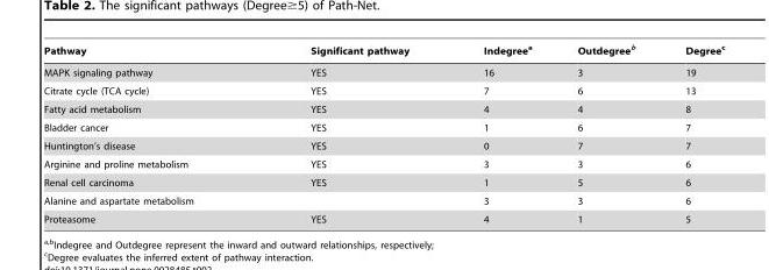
<table><thead><tr><td>Pathway</td><td>Significant pathway</td><td>Indegree<sup>a</sup></td><td>Outdegree<sup>b</sup></td><td>Degree<sup>c</sup></td></tr></thead><tbody><tr><td>MAPK signaling pathway</td><td>YES</td><td>16</td><td>3</td><td>19</td></tr><tr><td>Citrate cycle (TCA cycle)</td><td>YES</td><td>7</td><td>6</td><td>13</td></tr><tr><td>Fatty acid metabolism</td><td>YES</td><td>4</td><td>4</td><td>8</td></tr><tr><td>Bladder cancer</td><td>YES</td><td>1</td><td>6</td><td>7</td></tr><tr><td>Huntington’s disease</td><td>YES</td><td>0</td><td>7</td><td>7</td></tr><tr><td>Arginine and proline metabolism</td><td>YES</td><td>3</td><td>3</td><td>6</td></tr><tr><td>Renal cell carcinoma</td><td>YES</td><td>1</td><td>5</td><td>6</td></tr><tr><td>Alanine and aspartate metabolism</td><td></td><td>3</td><td>3</td><td>6</td></tr><tr><td>Proteasome</td><td>YES</td><td>4</td><td>1</td><td>5</td></tr></tbody></table>